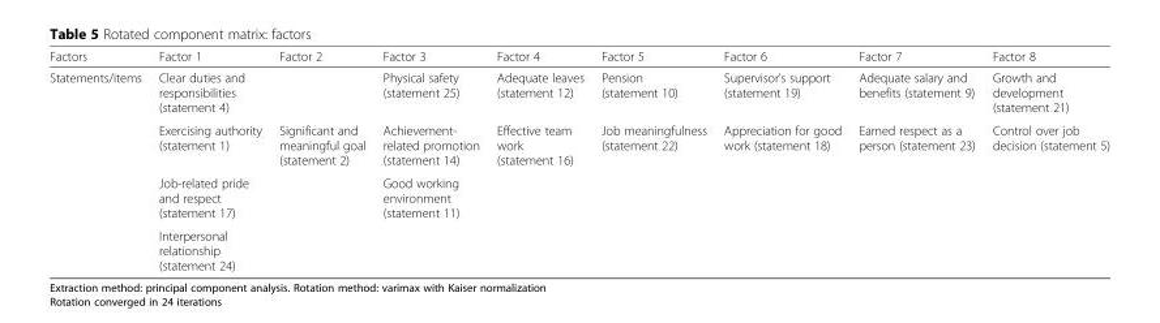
<table><thead><tr><td>Factors</td><td>Factor 1</td><td>Factor 2</td><td>Factor 3</td><td>Factor 4</td><td>Factor 5</td><td>Factor 6</td><td>Factor 7</td><td>Factor 8</td></tr></thead><tbody><tr><td rowspan="4">Statements/items</td><td>Clear duties and responsibilities (statement 4)</td><td></td><td>Physical safety (statement 25)</td><td>Adequate leaves (statement 12)</td><td>Pension (statement 10)</td><td>Supervisor’s support (statement 19)</td><td>Adequate salary and benefits (statement 9)</td><td>Growth and development (statement 21)</td></tr><tr><td>Exercising authority (statement 1)</td><td>Significant and meaningful goal (statement 2)</td><td>Achievement- related promotion (statement 14)</td><td>Effective team work (statement 16)</td><td>Job meaningfulness (statement 22)</td><td>Appreciation for good work (statement 18)</td><td>Earned respect as a person (statement 23)</td><td>Control over job decision (statement 5)</td></tr><tr><td>Job-related pride and respect (statement 17)</td><td></td><td>Good working environment (statement 11)</td><td></td><td></td><td></td><td></td><td></td></tr><tr><td>Interpersonal relationship (statement 24)</td><td></td><td></td><td></td><td></td><td></td><td></td><td></td></tr></tbody></table>